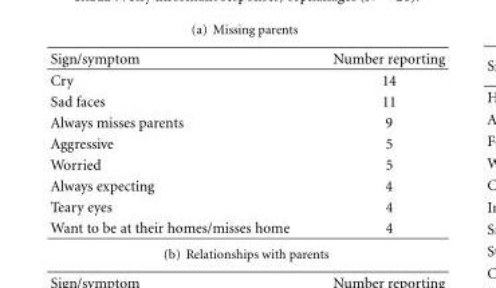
<table><thead><tr><td>Sign/symptom</td><td>Number reporting</td></tr></thead><tbody><tr><td>Cry</td><td>14</td></tr><tr><td>Sad faces</td><td>11</td></tr><tr><td>Always misses parents</td><td>9</td></tr><tr><td>Aggressive</td><td>5</td></tr><tr><td>Worried</td><td>5</td></tr><tr><td>Always expecting</td><td>4</td></tr><tr><td>Teary eyes</td><td>4</td></tr><tr><td>Want to be at their homes/misses home</td><td>4</td></tr></tbody></table>